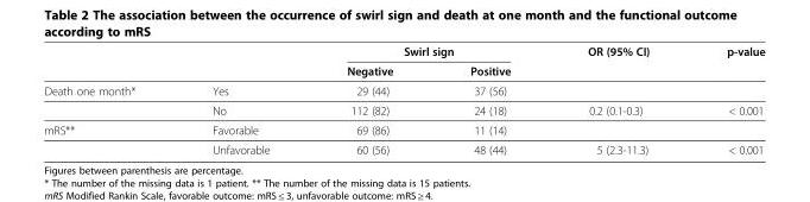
<table><thead><tr><td rowspan="2"></td><td rowspan="2"></td><td colspan="2">Swirl sign</td><td rowspan="2">OR (95% CI)</td><td rowspan="2">p-value</td></tr><tr><td>Negative</td><td>Positive</td></tr></thead><tbody><tr><td rowspan="2">Death one month*</td><td>Yes</td><td>29 (44)</td><td>37 (56)</td><td></td><td></td></tr><tr><td>No</td><td>112 (82)</td><td>24 (18)</td><td>0.2 (0.1-0.3)</td><td>&lt; 0.001</td></tr><tr><td rowspan="2">mRS**</td><td>Favorable</td><td>69 (86)</td><td>11 (14)</td><td></td><td></td></tr><tr><td>Unfavorable</td><td>60 (56)</td><td>48 (44)</td><td>5 (2.3-11.3)</td><td>&lt; 0.001</td></tr></tbody></table>